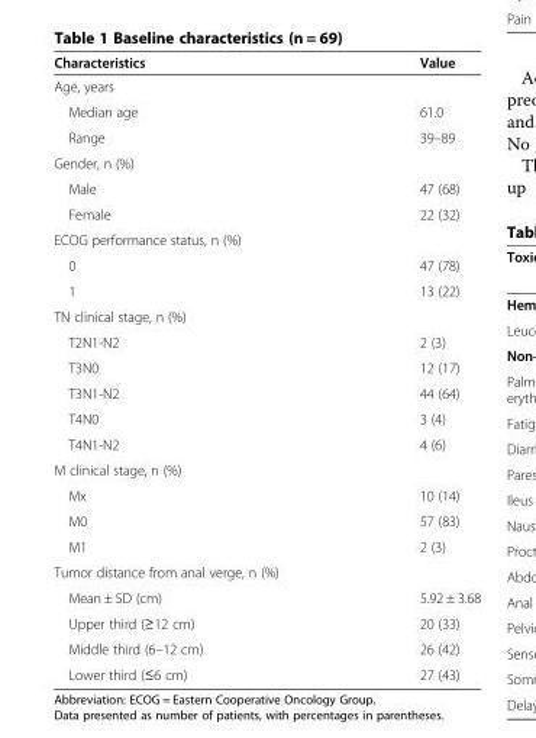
<table><thead><tr><td>Characteristics</td><td>Value</td></tr></thead><tbody><tr><td colspan="2">Age, years</td></tr><tr><td>Median age</td><td>61.0</td></tr><tr><td>Range</td><td>39–89</td></tr><tr><td colspan="2">Gender, n (%)</td></tr><tr><td>Male</td><td>47 (68)</td></tr><tr><td>Female</td><td>22 (32)</td></tr><tr><td colspan="2">ECOG performance status, n (%)</td></tr><tr><td>0</td><td>47 (78)</td></tr><tr><td>1</td><td>13 (22)</td></tr><tr><td colspan="2">TN clinical stage, n (%)</td></tr><tr><td>T2N1-N2</td><td>2 (3)</td></tr><tr><td>T3N0</td><td>12 (17)</td></tr><tr><td>T3N1-N2</td><td>44 (64)</td></tr><tr><td>T4N0</td><td>3 (4)</td></tr><tr><td>T4N1-N2</td><td>4 (6)</td></tr><tr><td colspan="2">M clinical stage, n (%)</td></tr><tr><td>Mx</td><td>10 (14)</td></tr><tr><td>M0</td><td>57 (83)</td></tr><tr><td>M1</td><td>2 (3)</td></tr><tr><td colspan="2">Tumor distance from anal verge, n (%)</td></tr><tr><td>Mean ± SD (cm)</td><td>5.92 ± 3.68</td></tr><tr><td>Upper third (≥12 cm)</td><td>20 (33)</td></tr><tr><td>Middle third (6–12 cm)</td><td>26 (42)</td></tr><tr><td>Lower third (≤6 cm)</td><td>27 (43)</td></tr></tbody></table>